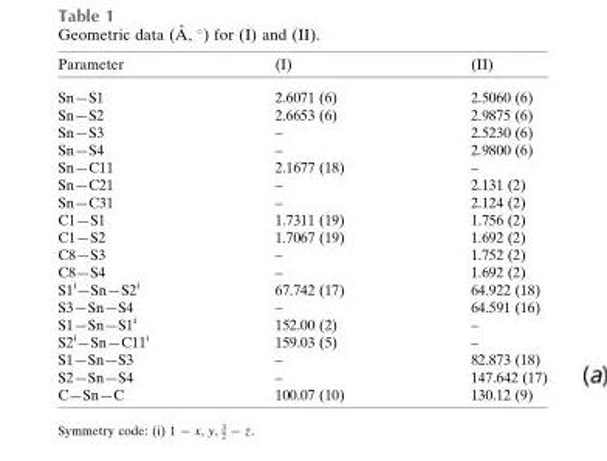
<table><thead><tr><td>Parameter</td><td>(I)</td><td>(II)</td></tr></thead><tbody><tr><td>Sn—S1</td><td>2.6071 (6)</td><td>2.5060 (6)</td></tr><tr><td>Sn—S2</td><td>2.6653 (6)</td><td>2.9875 (6)</td></tr><tr><td>Sn—S3</td><td>–</td><td>2.5230 (6)</td></tr><tr><td>Sn—S4</td><td>–</td><td>2.9800 (6)</td></tr><tr><td>Sn—C11</td><td>2.1677 (18)</td><td>–</td></tr><tr><td>Sn—C21</td><td>–</td><td>2.131 (2)</td></tr><tr><td>Sn—C31</td><td>–</td><td>2.124 (2)</td></tr><tr><td>C1—S1</td><td>1.7311 (19)</td><td>1.756 (2)</td></tr><tr><td>C1—S2</td><td>1.7067 (19)</td><td>1.692 (2)</td></tr><tr><td>C8—S3</td><td>–</td><td>1.752 (2)</td></tr><tr><td>C8—S4</td><td>–</td><td>1.692 (2)</td></tr><tr><td>S1<sup>i</sup>—Sn—S2<sup>i</sup></td><td>67.742 (17)</td><td>64.922 (18)</td></tr><tr><td>S3—Sn—S4</td><td>–</td><td>64.591 (16)</td></tr><tr><td>S1—Sn—S1<sup>i</sup></td><td>152.00 (2)</td><td>–</td></tr><tr><td>S2<sup>i</sup>—Sn—C11<sup>i</sup></td><td>159.03 (5)</td><td>–</td></tr><tr><td>S1—Sn—S3</td><td>–</td><td>82.873 (18)</td></tr><tr><td>S2—Sn—S4</td><td>–</td><td>147.642 (17)</td></tr><tr><td>C—Sn—C</td><td>100.07 (10)</td><td>130.12 (9)</td></tr></tbody></table>